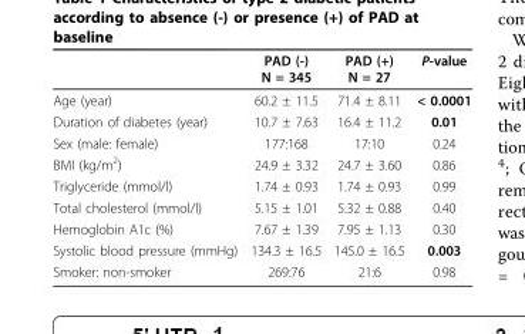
<table><thead><tr><td></td><td>PAD (-) N = 345</td><td>PAD (+) N = 27</td><td>P-value</td></tr></thead><tbody><tr><td>Age (year)</td><td>60.2 ± 11.5</td><td>71.4 ± 8.11</td><td>&lt; 0.0001</td></tr><tr><td>Duration of diabetes (year)</td><td>10.7 ± 7.63</td><td>16.4 ± 11.2</td><td>0.01</td></tr><tr><td>Sex (male: female)</td><td>177:168</td><td>17:10</td><td>0.24</td></tr><tr><td>BMI (kg/m<sup>2</sup>)</td><td>24.9 ± 3.32</td><td>24.7 ± 3.60</td><td>0.86</td></tr><tr><td>Triglyceride (mmol/l)</td><td>1.74 ± 0.93</td><td>1.74 ± 0.93</td><td>0.99</td></tr><tr><td>Total cholesterol (mmol/l)</td><td>5.15 ± 1.01</td><td>5.32 ± 0.88</td><td>0.40</td></tr><tr><td>Hemoglobin A1c (%)</td><td>7.67 ± 1.39</td><td>7.95 ± 1.13</td><td>0.30</td></tr><tr><td>Systolic blood pressure (mmHg)</td><td>134.3 ± 16.5</td><td>145.0 ± 16.5</td><td>0.003</td></tr><tr><td>Smoker: non-smoker</td><td>269:76</td><td>21:6</td><td>0.98</td></tr></tbody></table>